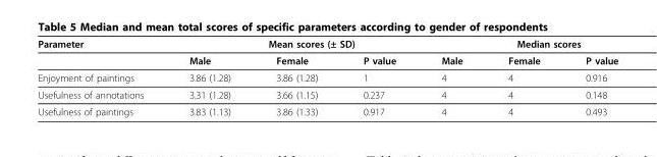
<table><thead><tr><td rowspan="2">Parameter</td><td colspan="3">Mean scores (± SD)</td><td colspan="3">Median scores</td></tr><tr><td>Male</td><td>Female</td><td>P value</td><td>Male</td><td>Female</td><td>P value</td></tr></thead><tbody><tr><td>Enjoyment of paintings</td><td>3.86 (1.28)</td><td>3.86 (1.28)</td><td>1</td><td>4</td><td>4</td><td>0.916</td></tr><tr><td>Usefulness of annotations</td><td>3.31 (1.28)</td><td>3.66 (1.15)</td><td>0.237</td><td>4</td><td>4</td><td>0.148</td></tr><tr><td>Usefulness of paintings</td><td>3.83 (1.13)</td><td>3.86 (1.33)</td><td>0.917</td><td>4</td><td>4</td><td>0.493</td></tr></tbody></table>